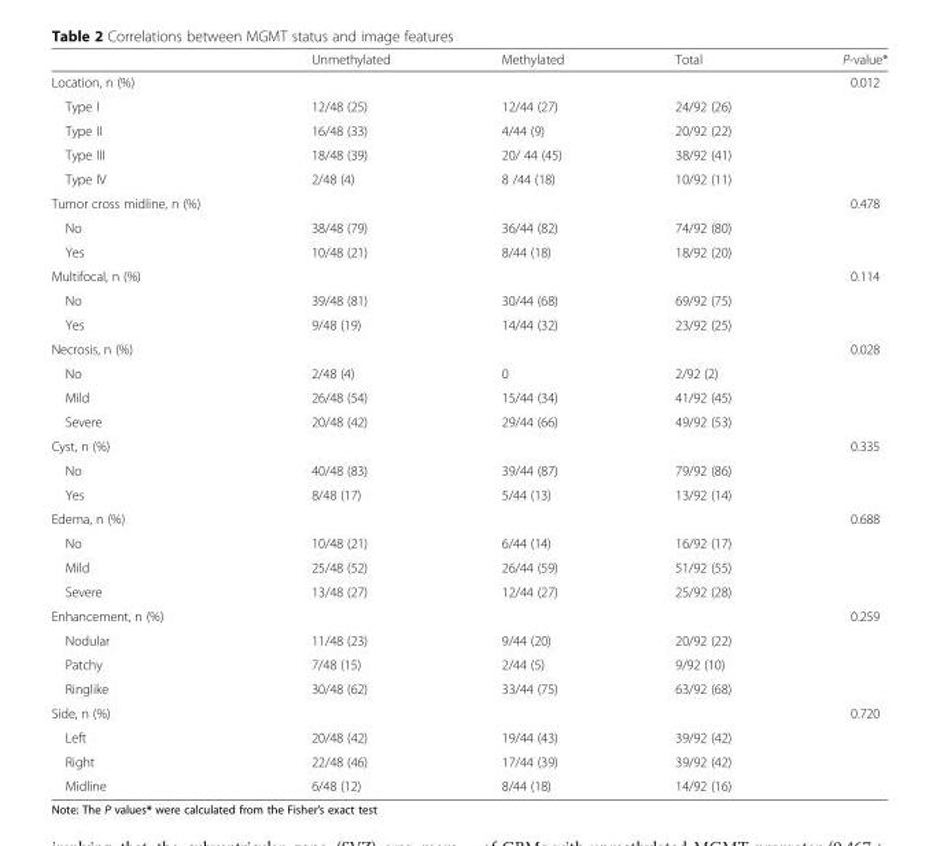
<table><thead><tr><td></td><td>Unmethylated</td><td>Methylated</td><td>Total</td><td>P-value*</td></tr></thead><tbody><tr><td>Location, n (%)</td><td></td><td></td><td></td><td>0.012</td></tr><tr><td>Type I</td><td>12/48 (25)</td><td>12/44 (27)</td><td>24/92 (26)</td><td></td></tr><tr><td>Type II</td><td>16/48 (33)</td><td>4/44 (9)</td><td>20/92 (22)</td><td></td></tr><tr><td>Type III</td><td>18/48 (39)</td><td>20/ 44 (45)</td><td>38/92 (41)</td><td></td></tr><tr><td>Type IV</td><td>2/48 (4)</td><td>8 /44 (18)</td><td>10/92 (11)</td><td></td></tr><tr><td>Tumor cross midline, n (%)</td><td></td><td></td><td></td><td>0.478</td></tr><tr><td>No</td><td>38/48 (79)</td><td>36/44 (82)</td><td>74/92 (80)</td><td></td></tr><tr><td>Yes</td><td>10/48 (21)</td><td>8/44 (18)</td><td>18/92 (20)</td><td></td></tr><tr><td>Multifocal, n (%)</td><td></td><td></td><td></td><td>0.114</td></tr><tr><td>No</td><td>39/48 (81)</td><td>30/44 (68)</td><td>69/92 (75)</td><td></td></tr><tr><td>Yes</td><td>9/48 (19)</td><td>14/44 (32)</td><td>23/92 (25)</td><td></td></tr><tr><td>Necrosis, n (%)</td><td></td><td></td><td></td><td>0.028</td></tr><tr><td>No</td><td>2/48 (4)</td><td>0</td><td>2/92 (2)</td><td></td></tr><tr><td>Mild</td><td>26/48 (54)</td><td>15/44 (34)</td><td>41/92 (45)</td><td></td></tr><tr><td>Severe</td><td>20/48 (42)</td><td>29/44 (66)</td><td>49/92 (53)</td><td></td></tr><tr><td>Cyst, n (%)</td><td></td><td></td><td></td><td>0.335</td></tr><tr><td>No</td><td>40/48 (83)</td><td>39/44 (87)</td><td>79/92 (86)</td><td></td></tr><tr><td>Yes</td><td>8/48 (17)</td><td>5/44 (13)</td><td>13/92 (14)</td><td></td></tr><tr><td>Edema, n (%)</td><td></td><td></td><td></td><td>0.688</td></tr><tr><td>No</td><td>10/48 (21)</td><td>6/44 (14)</td><td>16/92 (17)</td><td></td></tr><tr><td>Mild</td><td>25/48 (52)</td><td>26/44 (59)</td><td>51/92 (55)</td><td></td></tr><tr><td>Severe</td><td>13/48 (27)</td><td>12/44 (27)</td><td>25/92 (28)</td><td></td></tr><tr><td>Enhancement, n (%)</td><td></td><td></td><td></td><td>0.259</td></tr><tr><td>Nodular</td><td>11/48 (23)</td><td>9/44 (20)</td><td>20/92 (22)</td><td></td></tr><tr><td>Patchy</td><td>7/48 (15)</td><td>2/44 (5)</td><td>9/92 (10)</td><td></td></tr><tr><td>Ringlike</td><td>30/48 (62)</td><td>33/44 (75)</td><td>63/92 (68)</td><td></td></tr><tr><td>Side, n (%)</td><td></td><td></td><td></td><td>0.720</td></tr><tr><td>Left</td><td>20/48 (42)</td><td>19/44 (43)</td><td>39/92 (42)</td><td></td></tr><tr><td>Right</td><td>22/48 (46)</td><td>17/44 (39)</td><td>39/92 (42)</td><td></td></tr><tr><td>Midline</td><td>6/48 (12)</td><td>8/44 (18)</td><td>14/92 (16)</td><td></td></tr></tbody></table>